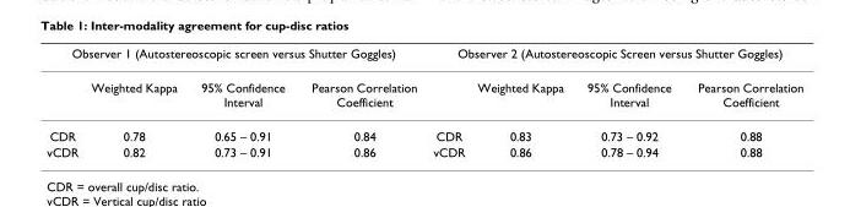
<table><thead><tr><td colspan="4">Observer 1 (Autostereoscopic screen versus Shutter Goggles)</td><td colspan="4">Observer 2 (Autostereoscopic Screen versus Shutter Goggles)</td></tr><tr><td></td><td>Weighted Kappa</td><td>95% Confidence Interval</td><td>Pearson Correlation Coefficient</td><td></td><td>Weighted Kappa</td><td>95% Confidence Interval</td><td>Pearson Correlation Coefficient</td></tr></thead><tbody><tr><td>CDR</td><td>0.78</td><td>0.65 – 0.91</td><td>0.84</td><td>CDR</td><td>0.83</td><td>0.73 – 0.92</td><td>0.88</td></tr><tr><td>vCDR</td><td>0.82</td><td>0.73 – 0.91</td><td>0.86</td><td>vCDR</td><td>0.86</td><td>0.78 – 0.94</td><td>0.88</td></tr></tbody></table>